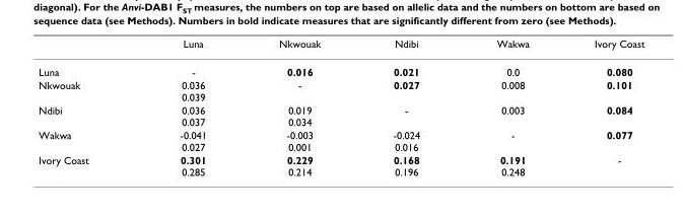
<table><thead><tr><td></td><td>Luna</td><td>Nkwouak</td><td>Ndibi</td><td>Wakwa</td><td>Ivory Coast</td></tr></thead><tbody><tr><td>Luna</td><td>-</td><td>0.016</td><td>0.021</td><td>0.0</td><td>0.080</td></tr><tr><td>Nkwouak</td><td>0.036 0.039</td><td>-</td><td>0.027</td><td>0.008</td><td>0.101</td></tr><tr><td>Ndibi</td><td>0.036 0.037</td><td>0.019 0.034</td><td>-</td><td>0.003</td><td>0.084</td></tr><tr><td>Wakwa</td><td>-0.041 0.027</td><td>-0.003 0.001</td><td>-0.024 0.016</td><td>-</td><td>0.077</td></tr><tr><td>Ivory Coast</td><td>0.301 0.285</td><td>0.229 0.214</td><td>0.168 0.196</td><td>0.191 0.248</td><td>-</td></tr></tbody></table>